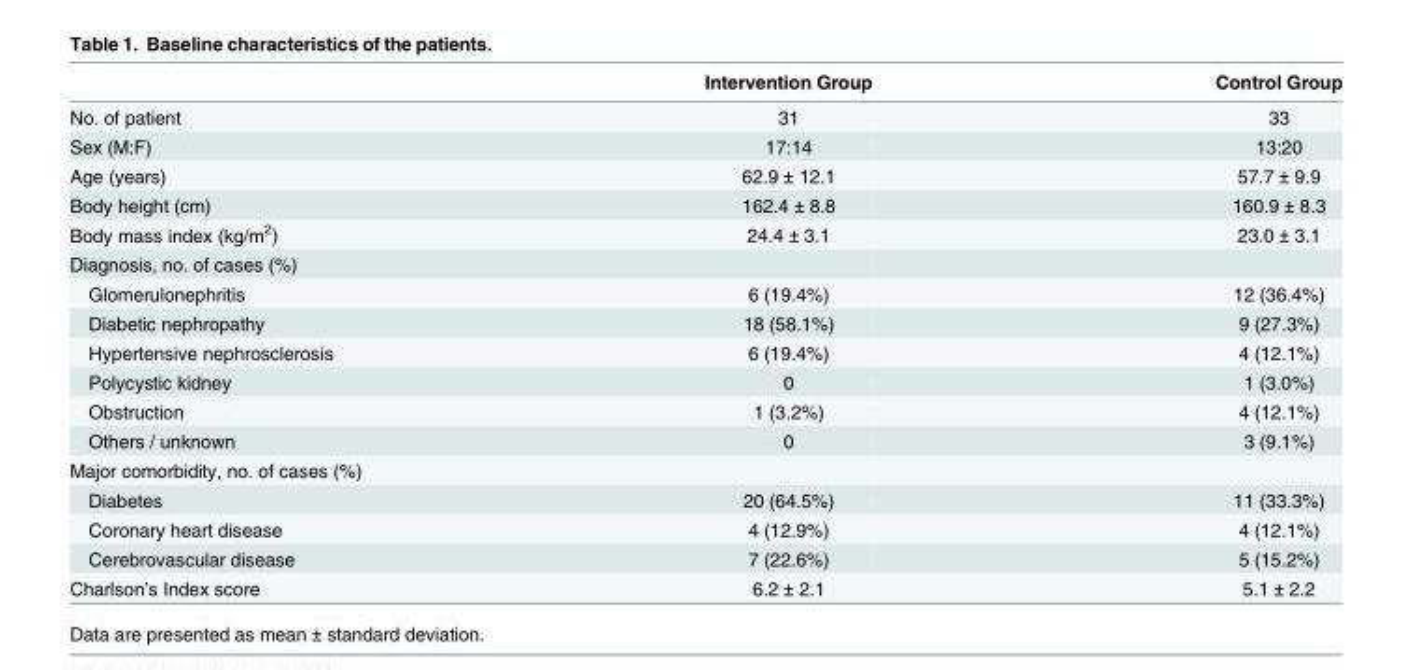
<table><thead><tr><td></td><td>Intervention Group</td><td>Control Group</td></tr></thead><tbody><tr><td>No. of patient</td><td>31</td><td>33</td></tr><tr><td>Sex (M:F)</td><td>17:14</td><td>13:20</td></tr><tr><td>Age (years)</td><td>62.9 ± 12.1</td><td>57.7 ± 9.9</td></tr><tr><td>Body height (cm)</td><td>162.4 ± 8.8</td><td>160.9 ± 8.3</td></tr><tr><td>Body mass index (kg/m<sup>2</sup>)</td><td>24.4 ± 3.1</td><td>23.0 ± 3.1</td></tr><tr><td colspan="3">Diagnosis, no. of cases (%)</td></tr><tr><td>Glomerulonephritis</td><td>6 (19.4%)</td><td>12 (36.4%)</td></tr><tr><td>Diabetic nephropathy</td><td>18 (58.1%)</td><td>9 (27.3%)</td></tr><tr><td>Hypertensive nephrosclerosis</td><td>6 (19.4%)</td><td>4 (12.1%)</td></tr><tr><td>Polycystic kidney</td><td>0</td><td>1 (3.0%)</td></tr><tr><td>Obstruction</td><td>1 (3.2%)</td><td>4 (12.1%)</td></tr><tr><td>Others / unknown</td><td>0</td><td>3 (9.1%)</td></tr><tr><td colspan="3">Major comorbidity, no. of cases (%)</td></tr><tr><td>Diabetes</td><td>20 (64.5%)</td><td>11 (33.3%)</td></tr><tr><td>Coronary heart disease</td><td>4 (12.9%)</td><td>4 (12.1%)</td></tr><tr><td>Cerebrovascular disease</td><td>7 (22.6%)</td><td>5 (15.2%)</td></tr><tr><td>Charlson’s Index score</td><td>6.2 ± 2.1</td><td>5.1 ± 2.2</td></tr></tbody></table>